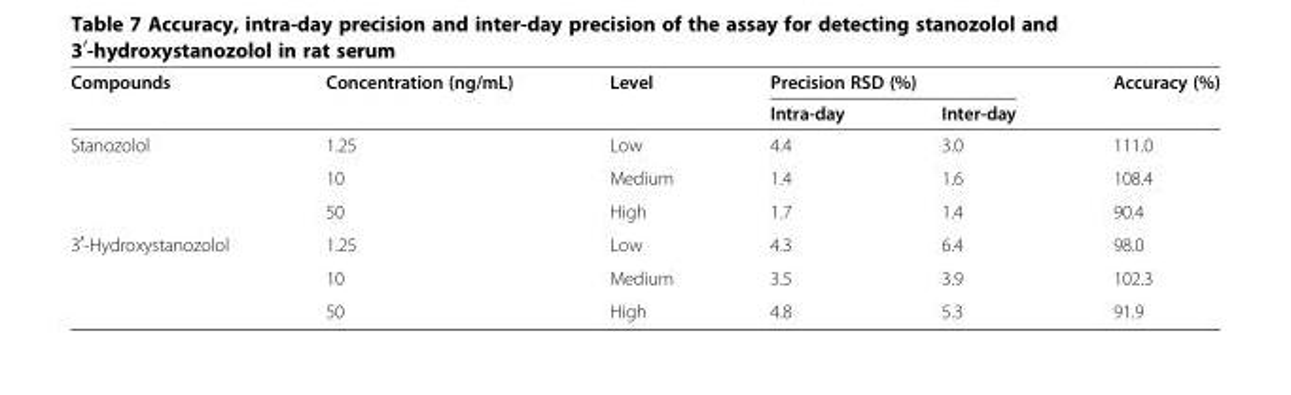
<table><thead><tr><td rowspan="2">Compounds</td><td rowspan="2">Concentration (ng/mL)</td><td rowspan="2">Level</td><td colspan="2">Precision RSD (%)</td><td rowspan="2">Accuracy (%)</td></tr><tr><td>Intra-day</td><td>Inter-day</td></tr></thead><tbody><tr><td rowspan="3">Stanozolol</td><td>1.25</td><td>Low</td><td>4.4</td><td>3.0</td><td>111.0</td></tr><tr><td>10</td><td>Medium</td><td>1.4</td><td>1.6</td><td>108.4</td></tr><tr><td>50</td><td>High</td><td>1.7</td><td>1.4</td><td>90.4</td></tr><tr><td rowspan="3">3<sup>′</sup>-Hydroxystanozolol</td><td>1.25</td><td>Low</td><td>4.3</td><td>6.4</td><td>98.0</td></tr><tr><td>10</td><td>Medium</td><td>3.5</td><td>3.9</td><td>102.3</td></tr><tr><td>50</td><td>High</td><td>4.8</td><td>5.3</td><td>91.9</td></tr></tbody></table>